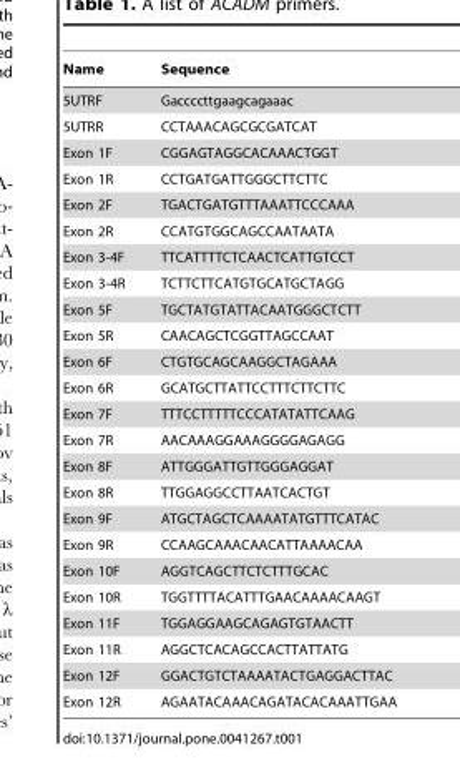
<table><thead><tr><td>Name</td><td>Sequence</td></tr></thead><tbody><tr><td>5UTRF</td><td>Gaccccttgaagcagaaac</td></tr><tr><td>5UTRR</td><td>CCTAAACAGCGCGATCAT</td></tr><tr><td>Exon 1F</td><td>CGGAGTAGGCACAAACTGGT</td></tr><tr><td>Exon 1R</td><td>CCTGATGATTGGGCTTCTTC</td></tr><tr><td>Exon 2F</td><td>TGACTGATGTTTAAATTCCCAAA</td></tr><tr><td>Exon 2R</td><td>CCATGTGGCAGCCAATAATA</td></tr><tr><td>Exon 3-4F</td><td>TTCATTTTCTCAACTCATTGTCCT</td></tr><tr><td>Exon 3-4R</td><td>TCTTCTTCATGTGCATGCTAGG</td></tr><tr><td>Exon 5F</td><td>TGCTATGTATTACAATGGGCTCTT</td></tr><tr><td>Exon 5R</td><td>CAACAGCTCGGTTAGCCAAT</td></tr><tr><td>Exon 6F</td><td>CTGTGCAGCAAGGCTAGAAA</td></tr><tr><td>Exon 6R</td><td>GCATGCTTATTCCTTTCTTCTTC</td></tr><tr><td>Exon 7F</td><td>TTTCCTTTTTCCCATATATTCAAG</td></tr><tr><td>Exon 7R</td><td>AACAAAGGAAAGGGGAGAGG</td></tr><tr><td>Exon 8F</td><td>ATTGGGATTGTTGGGAGGAT</td></tr><tr><td>Exon 8R</td><td>TTGGAGGCCTTAATCACTGT</td></tr><tr><td>Exon 9F</td><td>ATGCTAGCTCAAAATATGTTTCATAC</td></tr><tr><td>Exon 9R</td><td>CCAAGCAAACAACATTAAAACAA</td></tr><tr><td>Exon 10F</td><td>AGGTCAGCTTCTCTTTGCAC</td></tr><tr><td>Exon 10R</td><td>TGGTTTTACATTTGAACAAAACAAGT</td></tr><tr><td>Exon 11F</td><td>TGGAGGAAGCAGAGTGTAACTT</td></tr><tr><td>Exon 11R</td><td>AGGCTCACAGCCACTTATTATG</td></tr><tr><td>Exon 12F</td><td>GGACTGTCTAAAATACTGAGGACTTAC</td></tr><tr><td>Exon 12R</td><td>AGAATACAAACAGATACACAAATTGAA</td></tr></tbody></table>